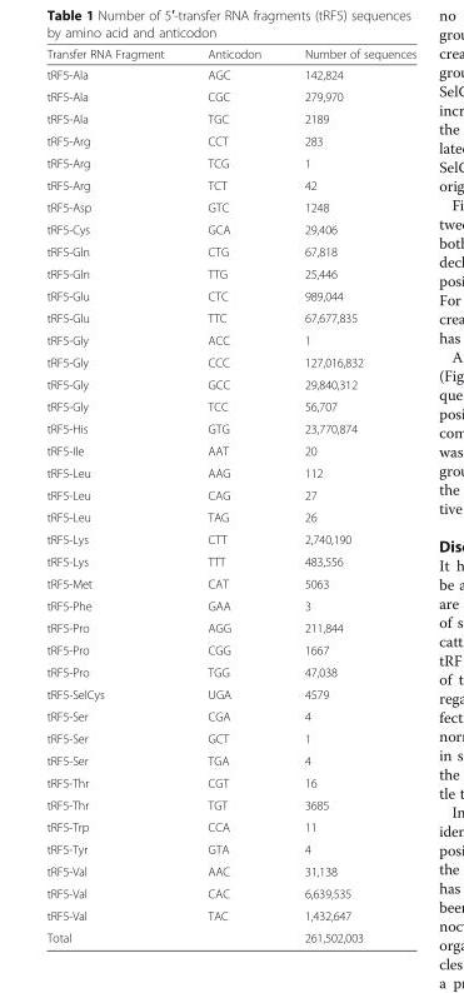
<table><thead><tr><td>Transfer RNA Fragment</td><td>Anticodon</td><td>Number of sequences</td></tr></thead><tbody><tr><td>tRF5-Ala</td><td>AGC</td><td>142,824</td></tr><tr><td>tRF5-Ala</td><td>CGC</td><td>279,970</td></tr><tr><td>tRF5-Ala</td><td>TGC</td><td>2189</td></tr><tr><td>tRF5-Arg</td><td>CCT</td><td>283</td></tr><tr><td>tRF5-Arg</td><td>TCG</td><td>1</td></tr><tr><td>tRF5-Arg</td><td>TCT</td><td>42</td></tr><tr><td>tRF5-Asp</td><td>GTC</td><td>1248</td></tr><tr><td>tRF5-Cys</td><td>GCA</td><td>29,406</td></tr><tr><td>tRF5-Gln</td><td>CTG</td><td>67,818</td></tr><tr><td>tRF5-Gln</td><td>TTG</td><td>25,446</td></tr><tr><td>tRF5-Glu</td><td>CTC</td><td>989,044</td></tr><tr><td>tRF5-Glu</td><td>TTC</td><td>67,677,835</td></tr><tr><td>tRF5-Gly</td><td>ACC</td><td>1</td></tr><tr><td>tRF5-Gly</td><td>CCC</td><td>127,016,832</td></tr><tr><td>tRF5-Gly</td><td>GCC</td><td>29,840,312</td></tr><tr><td>tRF5-Gly</td><td>TCC</td><td>56,707</td></tr><tr><td>tRF5-His</td><td>GTG</td><td>23,770,874</td></tr><tr><td>tRF5-Ile</td><td>AAT</td><td>20</td></tr><tr><td>tRF5-Leu</td><td>AAG</td><td>112</td></tr><tr><td>tRF5-Leu</td><td>CAG</td><td>27</td></tr><tr><td>tRF5-Leu</td><td>TAG</td><td>26</td></tr><tr><td>tRF5-Lys</td><td>CTT</td><td>2,740,190</td></tr><tr><td>tRF5-Lys</td><td>TTT</td><td>483,556</td></tr><tr><td>tRF5-Met</td><td>CAT</td><td>5063</td></tr><tr><td>tRF5-Phe</td><td>GAA</td><td>3</td></tr><tr><td>tRF5-Pro</td><td>AGG</td><td>211,844</td></tr><tr><td>tRF5-Pro</td><td>CGG</td><td>1667</td></tr><tr><td>tRF5-Pro</td><td>TGG</td><td>47,038</td></tr><tr><td>tRF5-SelCys</td><td>UGA</td><td>4579</td></tr><tr><td>tRF5-Ser</td><td>CGA</td><td>4</td></tr><tr><td>tRF5-Ser</td><td>GCT</td><td>1</td></tr><tr><td>tRF5-Ser</td><td>TGA</td><td>4</td></tr><tr><td>tRF5-Thr</td><td>CGT</td><td>16</td></tr><tr><td>tRF5-Thr</td><td>TGT</td><td>3685</td></tr><tr><td>tRF5-Trp</td><td>CCA</td><td>11</td></tr><tr><td>tRF5-Tyr</td><td>GTA</td><td>4</td></tr><tr><td>tRF5-Val</td><td>AAC</td><td>31,138</td></tr><tr><td>tRF5-Val</td><td>CAC</td><td>6,639,535</td></tr><tr><td>tRF5-Val</td><td>TAC</td><td>1,432,647</td></tr><tr><td>Total</td><td></td><td>261,502,003</td></tr></tbody></table>